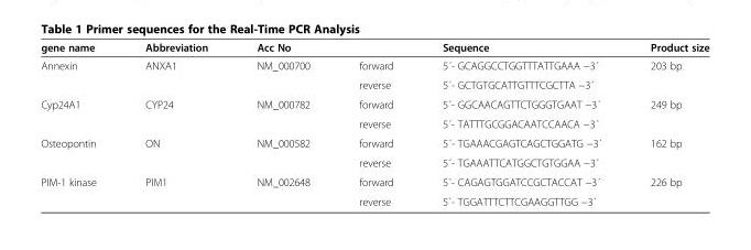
<table><thead><tr><td>gene name</td><td>Abbreviation</td><td>Acc No</td><td></td><td>Sequence</td><td>Product size</td></tr></thead><tbody><tr><td rowspan="2">Annexin</td><td rowspan="2">ANXA1</td><td rowspan="2">NM_000700</td><td>forward</td><td>5´- GCAGGCCTGGTTTATTGAAA −3´</td><td rowspan="2">203 bp</td></tr><tr><td>reverse</td><td>5´- GCTGTGCATTGTTTCGCTTA −3´</td></tr><tr><td rowspan="2">Cyp24A1</td><td rowspan="2">CYP24</td><td rowspan="2">NM_000782</td><td>forward</td><td>5´- GGCAACAGTTCTGGGTGAAT −3´</td><td rowspan="2">249 bp</td></tr><tr><td>reverse</td><td>5´- TATTTGCGGACAATCCAACA −3´</td></tr><tr><td rowspan="2">Osteopontin</td><td rowspan="2">ON</td><td rowspan="2">NM_000582</td><td>forward</td><td>5´- TGAAACGAGTCAGCTGGATG −3´</td><td rowspan="2">162 bp</td></tr><tr><td>reverse</td><td>5´- TGAAATTCATGGCTGTGGAA −3´</td></tr><tr><td rowspan="2">PIM-1 kinase</td><td rowspan="2">PIM1</td><td rowspan="2">NM_002648</td><td>forward</td><td>5´- CAGAGTGGATCCGCTACCAT −3´</td><td rowspan="2">226 bp</td></tr><tr><td>reverse</td><td>5´- TGGATTTCTTCGAAGGTTGG −3´</td></tr></tbody></table>